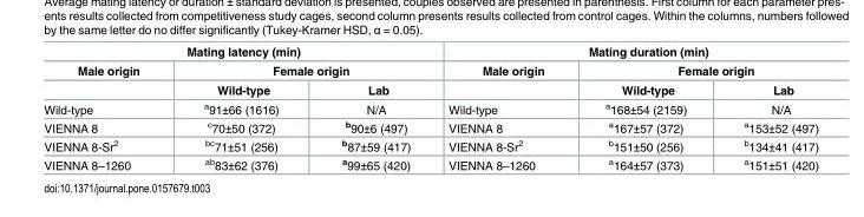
<table><thead><tr><td colspan="3">Mating latency (min)</td><td colspan="3">Mating duration (min)</td></tr><tr><td rowspan="2">Male origin</td><td colspan="2">Female origin</td><td rowspan="2">Male origin</td><td colspan="2">Female origin</td></tr><tr><td>Wild-type</td><td>Lab</td><td>Wild-type</td><td>Lab</td></tr></thead><tbody><tr><td>Wild-type</td><td><sup>a</sup>91±66 (1616)</td><td>N/A</td><td>Wild-type</td><td><sup>a</sup>168±54 (2159)</td><td>N/A</td></tr><tr><td>VIENNA 8</td><td><sup>c</sup>70±50 (372)</td><td><sup>b</sup>90±6 (497)</td><td>VIENNA 8</td><td><sup>a</sup>167±57 (372)</td><td><sup>a</sup>153±52 (497)</td></tr><tr><td>VIENNA 8-Sr<sup>2</sup></td><td><sup>bc</sup>71±51 (256)</td><td><sup>b</sup>87±59 (417)</td><td>VIENNA 8-Sr<sup>2</sup></td><td><sup>b</sup>151±50 (256)</td><td><sup>b</sup>134±41 (417)</td></tr><tr><td>VIENNA 8–1260</td><td><sup>ab</sup>83±62 (376)</td><td><sup>a</sup>99±65 (420)</td><td>VIENNA 8–1260</td><td><sup>a</sup>164±57 (373)</td><td><sup>a</sup>151±51 (420)</td></tr></tbody></table>